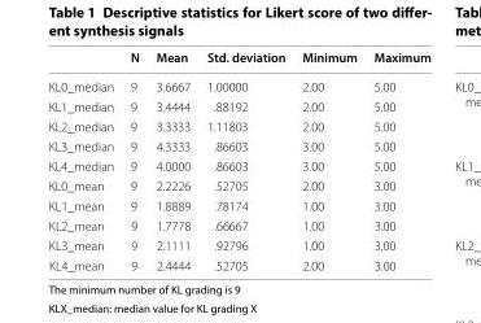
<table><thead><tr><td></td><td>N</td><td>Mean</td><td>Std. deviation</td><td>Minimum</td><td>Maximum</td></tr></thead><tbody><tr><td>KL0_median</td><td>9</td><td>3.6667</td><td>1.00000</td><td>2.00</td><td>5.00</td></tr><tr><td>KL1_median</td><td>9</td><td>3.4444</td><td>.88192</td><td>2.00</td><td>5.00</td></tr><tr><td>KL2_median</td><td>9</td><td>3.3333</td><td>1.11803</td><td>2.00</td><td>5.00</td></tr><tr><td>KL3_median</td><td>9</td><td>4.3333</td><td>.86603</td><td>3.00</td><td>5.00</td></tr><tr><td>KL4_median</td><td>9</td><td>4.0000</td><td>.86603</td><td>3.00</td><td>5.00</td></tr><tr><td>KL0_mean</td><td>9</td><td>2.2226</td><td>.52705</td><td>2.00</td><td>3.00</td></tr><tr><td>KL1_mean</td><td>9</td><td>1.8889</td><td>.78174</td><td>1.00</td><td>3.00</td></tr><tr><td>KL2_mean</td><td>9</td><td>1.7778</td><td>.66667</td><td>1.00</td><td>3.00</td></tr><tr><td>KL3_mean</td><td>9</td><td>2.1111</td><td>.92796</td><td>1.00</td><td>3.00</td></tr><tr><td>KL4_mean</td><td>9</td><td>2.4444</td><td>.52705</td><td>2.00</td><td>3.00</td></tr></tbody></table>